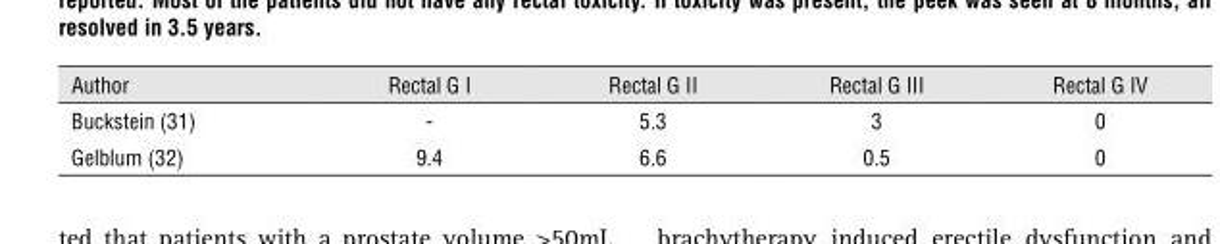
<table><thead><tr><td>Author</td><td>Rectal G I</td><td>Rectal G II</td><td>Rectal G III</td><td>Rectal G IV</td></tr></thead><tbody><tr><td>Buckstein (31)</td><td>-</td><td>5.3</td><td>3</td><td>0</td></tr><tr><td>Gelblum (32)</td><td>9.4</td><td>6.6</td><td>0.5</td><td>0</td></tr></tbody></table>